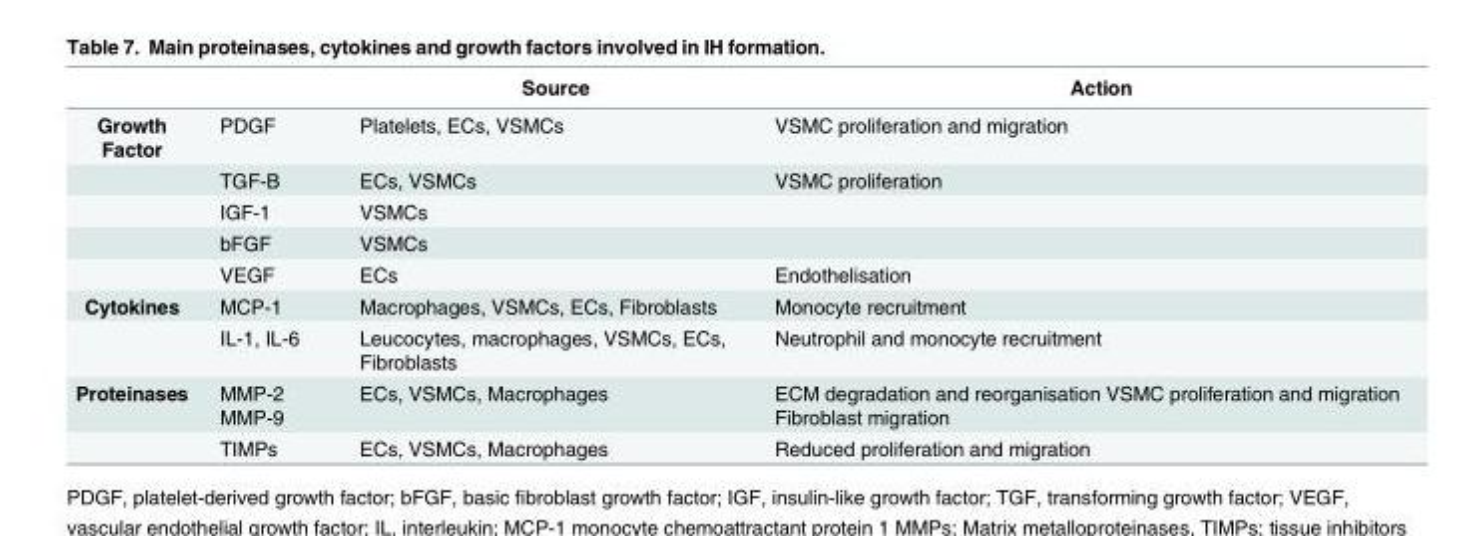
<table><thead><tr><td></td><td></td><td>Source</td><td>Action</td></tr></thead><tbody><tr><td rowspan="5">Growth Factor</td><td>PDGF</td><td>Platelets, ECs, VSMCs</td><td>VSMC proliferation and migration</td></tr><tr><td>TGF-B</td><td>ECs, VSMCs</td><td>VSMC proliferation</td></tr><tr><td>IGF-1</td><td>VSMCs</td><td></td></tr><tr><td>bFGF</td><td>VSMCs</td><td></td></tr><tr><td>VEGF</td><td>ECs</td><td>Endothelisation</td></tr><tr><td rowspan="2">Cytokines</td><td>MCP-1</td><td>Macrophages, VSMCs, ECs, Fibroblasts</td><td>Monocyte recruitment</td></tr><tr><td>IL-1, IL-6</td><td>Leucocytes, macrophages, VSMCs, ECs, Fibroblasts</td><td>Neutrophil and monocyte recruitment</td></tr><tr><td rowspan="2">Proteinases</td><td>MMP-2 MMP-9</td><td>ECs, VSMCs, Macrophages</td><td>ECM degradation and reorganisation VSMC proliferation and migration Fibroblast migration</td></tr><tr><td>TIMPs</td><td>ECs, VSMCs, Macrophages</td><td>Reduced proliferation and migration</td></tr></tbody></table>